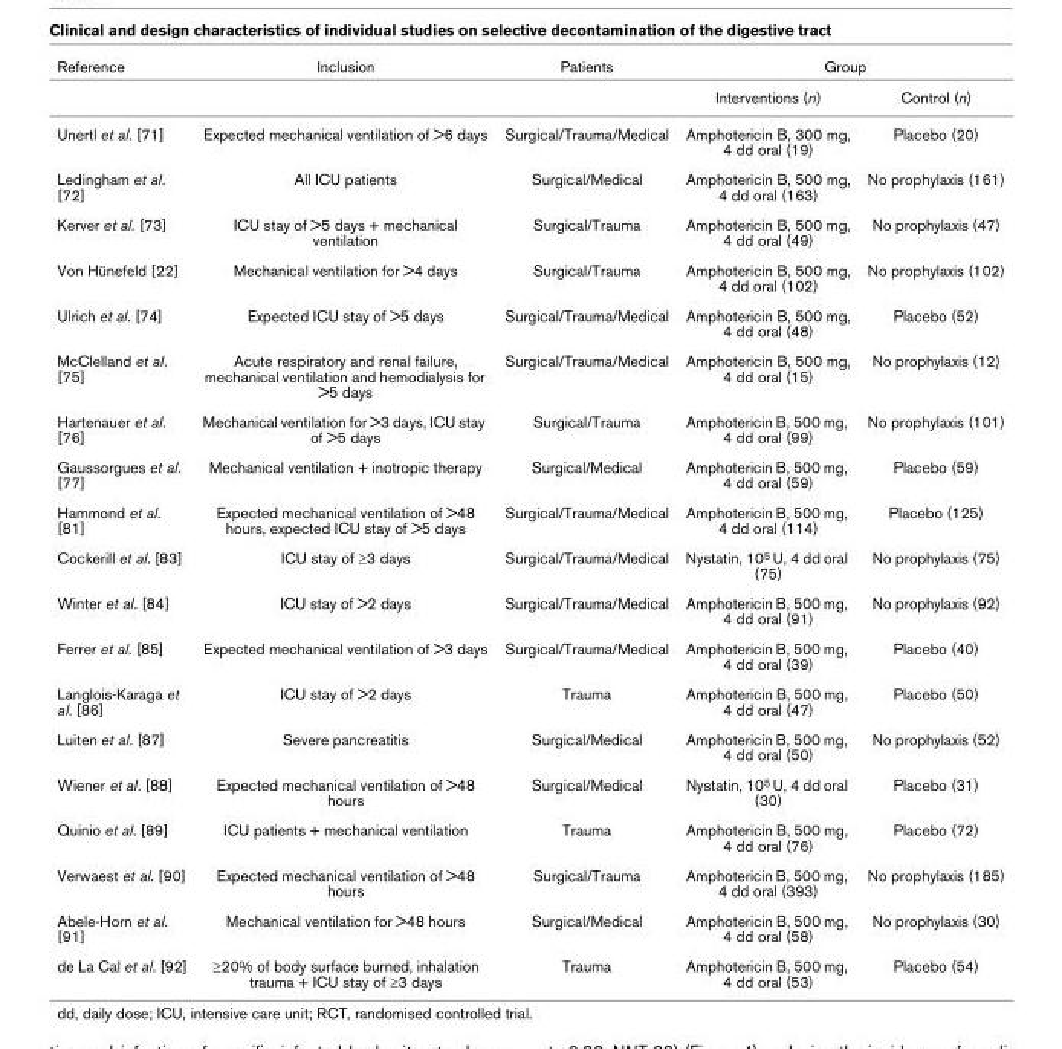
<table><thead><tr><td rowspan="2">Reference</td><td rowspan="2">Inclusion</td><td rowspan="2">Patients</td><td colspan="2">Group</td></tr><tr><td>Interventions (n)</td><td>Control (n)</td></tr></thead><tbody><tr><td>Unertl et al. [71]</td><td>Expected mechanical ventilation of &gt;6 days</td><td>Surgical/Trauma/Medical</td><td>Amphotericin B, 300 mg, 4 dd oral (19)</td><td>Placebo (20)</td></tr><tr><td>Ledingham et al. [72]</td><td>All ICU patients</td><td>Surgical/Medical</td><td>Amphotericin B, 500 mg, 4 dd oral (163)</td><td>No prophylaxis (161)</td></tr><tr><td>Kerver et al. [73]</td><td>ICU stay of &gt;5 days + mechanical ventilation</td><td>Surgical/Trauma</td><td>Amphotericin B, 500 mg, 4 dd oral (49)</td><td>No prophylaxis (47)</td></tr><tr><td>Von Hünefeld [22]</td><td>Mechanical ventilation for &gt;4 days</td><td>Surgical/Trauma</td><td>Amphotericin B, 500 mg, 4 dd oral (102)</td><td>No prophylaxis (102)</td></tr><tr><td>Ulrich et al. [74]</td><td>Expected ICU stay of &gt;5 days</td><td>Surgical/Trauma/Medical</td><td>Amphotericin B, 500 mg, 4 dd oral (48)</td><td>Placebo (52)</td></tr><tr><td>McClelland et al. [75]</td><td>Acute respiratory and renal failure, mechanical ventilation and hemodialysis for &gt;5 days</td><td>Surgical/Trauma/Medical</td><td>Amphotericin B, 500 mg, 4 dd oral (15)</td><td>No prophylaxis (12)</td></tr><tr><td>Hartenauer et al. [76]</td><td>Mechanical ventilation for &gt;3 days, ICU stay of &gt;5 days</td><td>Surgical/Trauma</td><td>Amphotericin B, 500 mg, 4 dd oral (99)</td><td>No prophylaxis (101)</td></tr><tr><td>Gaussorgues et al. [77]</td><td>Mechanical ventilation + inotropic therapy</td><td>Surgical/Medical</td><td>Amphotericin B, 500 mg, 4 dd oral (59)</td><td>Placebo (59)</td></tr><tr><td>Hammond et al. [81]</td><td>Expected mechanical ventilation of &gt;48 hours, expected ICU stay of &gt;5 days</td><td>Surgical/Trauma/Medical</td><td>Amphotericin B, 500 mg, 4 dd oral (114)</td><td>Placebo (125)</td></tr><tr><td>Cockerill et al. [83]</td><td>ICU stay of ≥3 days</td><td>Surgical/Trauma/Medical</td><td>Nystatin, 10<sup>5</sup> U, 4 dd oral (75)</td><td>No prophylaxis (75)</td></tr><tr><td>Winter et al. [84]</td><td>ICU stay of &gt;2 days</td><td>Surgical/Trauma/Medical</td><td>Amphotericin B, 500 mg, 4 dd oral (91)</td><td>No prophylaxis (92)</td></tr><tr><td>Ferrer et al. [85]</td><td>Expected mechanical ventilation of &gt;3 days</td><td>Surgical/Trauma/Medical</td><td>Amphotericin B, 500 mg, 4 dd oral (39)</td><td>Placebo (40)</td></tr><tr><td>Langlois-Karaga et al. [86]</td><td>ICU stay of &gt;2 days</td><td>Trauma</td><td>Amphotericin B, 500 mg, 4 dd oral (47)</td><td>Placebo (50)</td></tr><tr><td>Luiten et al. [87]</td><td>Severe pancreatitis</td><td>Surgical/Medical</td><td>Amphotericin B, 500 mg, 4 dd oral (50)</td><td>No prophylaxis (52)</td></tr><tr><td>Wiener et al. [88]</td><td>Expected mechanical ventilation of &gt;48 hours</td><td>Surgical/Medical</td><td>Nystatin, 10<sup>5</sup> U, 4 dd oral (30)</td><td>Placebo (31)</td></tr><tr><td>Quinio et al. [89]</td><td>ICU patients + mechanical ventilation</td><td>Trauma</td><td>Amphotericin B, 500 mg, 4 dd oral (76)</td><td>Placebo (72)</td></tr><tr><td>Verwaest et al. [90]</td><td>Expected mechanical ventilation of &gt;48 hours</td><td>Surgical/Trauma</td><td>Amphotericin B, 500 mg, 4 dd oral (393)</td><td>No prophylaxis (185)</td></tr><tr><td>Abele-Horn et al. [91]</td><td>Mechanical ventilation for &gt;48 hours</td><td>Surgical/Medical</td><td>Amphotericin B, 500 mg, 4 dd oral (58)</td><td>No prophylaxis (30)</td></tr><tr><td>de La Cal et al. [92]</td><td>≥20% of body surface burned, inhalation trauma + ICU stay of ≥3 days</td><td>Trauma</td><td>Amphotericin B, 500 mg, 4 dd oral (53)</td><td>Placebo (54)</td></tr></tbody></table>